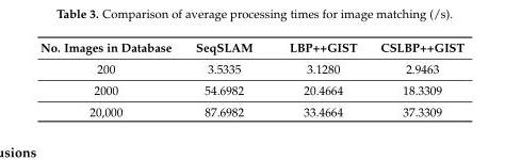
<table><thead><tr><td>No. Images in Database</td><td>SeqSLAM</td><td>LBP++GIST</td><td>CSLBP++GIST</td></tr></thead><tbody><tr><td>200</td><td>3.5335</td><td>3.1280</td><td>2.9463</td></tr><tr><td>2000</td><td>54.6982</td><td>20.4664</td><td>18.3309</td></tr><tr><td>20,000</td><td>87.6982</td><td>33.4664</td><td>37.3309</td></tr></tbody></table>